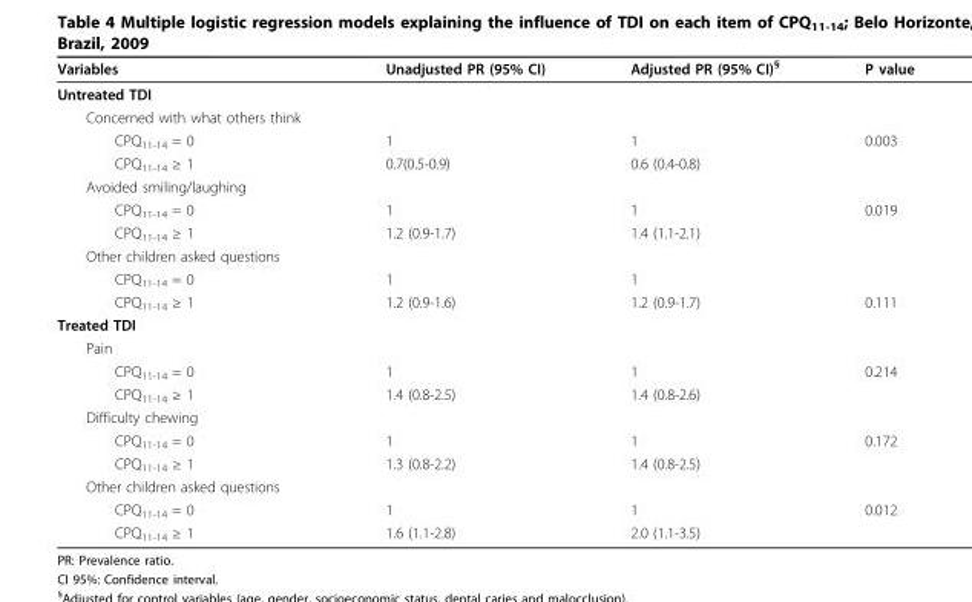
<table><thead><tr><td>Variables</td><td>Unadjusted PR (95% CI)</td><td>Adjusted PR (95% CI)<sup>§</sup></td><td>P value</td></tr></thead><tbody><tr><td colspan="4">Untreated TDI</td></tr><tr><td colspan="4">Concerned with what others think</td></tr><tr><td>CPQ<sub>11-14</sub> = 0</td><td>1</td><td>1</td><td>0.003</td></tr><tr><td>CPQ<sub>11-14</sub> ≥ 1</td><td>0.7(0.5-0.9)</td><td>0.6 (0.4-0.8)</td><td></td></tr><tr><td colspan="4">Avoided smiling/laughing</td></tr><tr><td>CPQ<sub>11-14</sub> = 0</td><td>1</td><td>1</td><td>0.019</td></tr><tr><td>CPQ<sub>11-14</sub> ≥ 1</td><td>1.2 (0.9-1.7)</td><td>1.4 (1.1-2.1)</td><td></td></tr><tr><td colspan="4">Other children asked questions</td></tr><tr><td>CPQ<sub>11-14</sub> = 0</td><td>1</td><td>1</td><td></td></tr><tr><td>CPQ<sub>11-14</sub> ≥ 1</td><td>1.2 (0.9-1.6)</td><td>1.2 (0.9-1.7)</td><td>0.111</td></tr><tr><td colspan="4">Treated TDI</td></tr><tr><td colspan="4">Pain</td></tr><tr><td>CPQ<sub>11-14</sub> = 0</td><td>1</td><td>1</td><td>0.214</td></tr><tr><td>CPQ<sub>11-14</sub> ≥ 1</td><td>1.4 (0.8-2.5)</td><td>1.4 (0.8-2.6)</td><td></td></tr><tr><td colspan="4">Difficulty chewing</td></tr><tr><td>CPQ<sub>11-14</sub> = 0</td><td>1</td><td>1</td><td>0.172</td></tr><tr><td>CPQ<sub>11-14</sub> ≥ 1</td><td>1.3 (0.8-2.2)</td><td>1.4 (0.8-2.5)</td><td></td></tr><tr><td colspan="4">Other children asked questions</td></tr><tr><td>CPQ<sub>11-14</sub> = 0</td><td>1</td><td>1</td><td>0.012</td></tr><tr><td>CPQ<sub>11-14</sub> ≥ 1</td><td>1.6 (1.1-2.8)</td><td>2.0 (1.1-3.5)</td><td></td></tr></tbody></table>